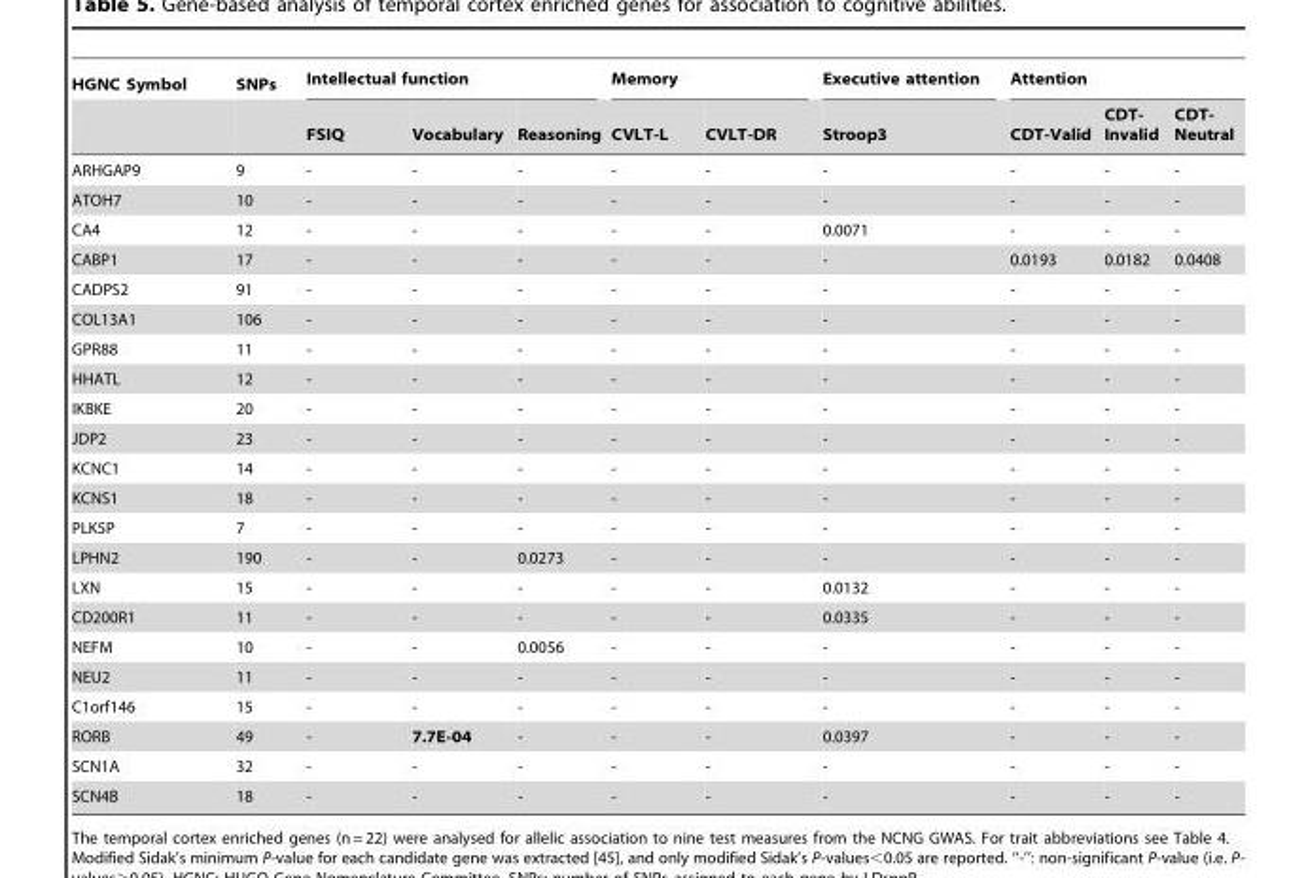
<table><thead><tr><td rowspan="2">HGNC Symbol</td><td rowspan="2">SNPs</td><td colspan="3">Intellectual function</td><td colspan="2">Memory</td><td rowspan="2">Executive attention Stroop3</td><td colspan="3">Attention</td></tr><tr><td>FSIQ</td><td>Vocabulary</td><td>Reasoning</td><td>CVLT-L</td><td>CVLT-DR</td><td>CDT-Valid</td><td>CDT- Invalid</td><td>CDT- Neutral</td></tr></thead><tbody><tr><td>ARHGAP9</td><td>9</td><td>-</td><td>-</td><td>-</td><td>-</td><td>-</td><td>-</td><td>-</td><td>-</td><td>-</td></tr><tr><td>ATOH7</td><td>10</td><td>-</td><td>-</td><td>-</td><td>-</td><td>-</td><td>-</td><td>-</td><td>-</td><td>-</td></tr><tr><td>CA4</td><td>12</td><td>-</td><td>-</td><td>-</td><td>-</td><td>-</td><td>0.0071</td><td>-</td><td>-</td><td>-</td></tr><tr><td>CABP1</td><td>17</td><td>-</td><td>-</td><td>-</td><td>-</td><td>-</td><td>-</td><td>0.0193</td><td>0.0182</td><td>0.0408</td></tr><tr><td>CADPS2</td><td>91</td><td>-</td><td>-</td><td>-</td><td>-</td><td>-</td><td>-</td><td>-</td><td>-</td><td>-</td></tr><tr><td>COL13A1</td><td>106</td><td>-</td><td>-</td><td>-</td><td>-</td><td>-</td><td>-</td><td>-</td><td>-</td><td>-</td></tr><tr><td>GPR88</td><td>11</td><td>-</td><td>-</td><td>-</td><td>-</td><td>-</td><td>-</td><td>-</td><td>-</td><td>-</td></tr><tr><td>HHATL</td><td>12</td><td>-</td><td>-</td><td>-</td><td>-</td><td>-</td><td>-</td><td>-</td><td>-</td><td>-</td></tr><tr><td>IKBKE</td><td>20</td><td>-</td><td>-</td><td>-</td><td>-</td><td>-</td><td>-</td><td>-</td><td>-</td><td>-</td></tr><tr><td>JDP2</td><td>23</td><td>-</td><td>-</td><td>-</td><td>-</td><td>-</td><td>-</td><td>-</td><td>-</td><td>-</td></tr><tr><td>KCNC1</td><td>14</td><td>-</td><td>-</td><td>-</td><td>-</td><td>-</td><td>-</td><td>-</td><td>-</td><td>-</td></tr><tr><td>KCNS1</td><td>18</td><td>-</td><td>-</td><td>-</td><td>-</td><td>-</td><td>-</td><td>-</td><td>-</td><td>-</td></tr><tr><td>PLK5P</td><td>7</td><td>-</td><td>-</td><td>-</td><td>-</td><td>-</td><td>-</td><td>-</td><td>-</td><td>-</td></tr><tr><td>LPHN2</td><td>190</td><td>-</td><td>-</td><td>0.0273</td><td>-</td><td>-</td><td>-</td><td>-</td><td>-</td><td>-</td></tr><tr><td>LXN</td><td>15</td><td>-</td><td>-</td><td>-</td><td>-</td><td>-</td><td>0.0132</td><td>-</td><td>-</td><td>-</td></tr><tr><td>CD200R1</td><td>11</td><td>-</td><td>-</td><td>-</td><td>-</td><td>-</td><td>0.0335</td><td>-</td><td>-</td><td>-</td></tr><tr><td>NEFM</td><td>10</td><td>-</td><td>-</td><td>0.0056</td><td>-</td><td>-</td><td>-</td><td>-</td><td>-</td><td>-</td></tr><tr><td>NEU2</td><td>11</td><td>-</td><td>-</td><td>-</td><td>-</td><td>-</td><td>-</td><td>-</td><td>-</td><td>-</td></tr><tr><td>C1orf146</td><td>15</td><td>-</td><td>-</td><td>-</td><td>-</td><td>-</td><td>-</td><td>-</td><td>-</td><td>-</td></tr><tr><td>RORB</td><td>49</td><td>-</td><td>7.7E-04</td><td>-</td><td>-</td><td>-</td><td>0.0397</td><td>-</td><td>-</td><td>-</td></tr><tr><td>SCN1A</td><td>32</td><td>-</td><td>-</td><td>-</td><td>-</td><td>-</td><td>-</td><td>-</td><td>-</td><td>-</td></tr><tr><td>SCN4B</td><td>18</td><td>-</td><td>-</td><td>-</td><td>-</td><td>-</td><td>-</td><td>-</td><td>-</td><td>-</td></tr></tbody></table>